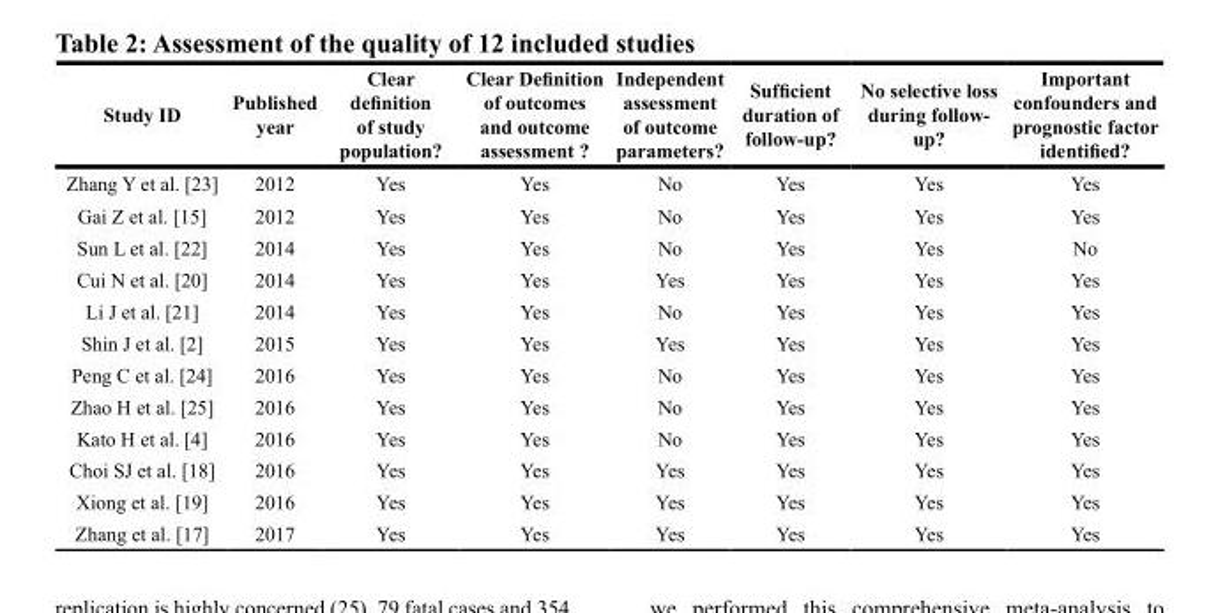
<table><thead><tr><td>Study ID</td><td>Published year</td><td>Clear definition of study population?</td><td>Clear Definition of outcomes and outcome assessment ?</td><td>Independent assessment of outcome parameters?</td><td>Sufficient duration of follow-up?</td><td>No selective loss during follow- up?</td><td>Important confounders and prognostic factor identified?</td></tr></thead><tbody><tr><td>Zhang Y et al. [23]</td><td>2012</td><td>Yes</td><td>Yes</td><td>No</td><td>Yes</td><td>Yes</td><td>Yes</td></tr><tr><td>Gai Z et al. [15]</td><td>2012</td><td>Yes</td><td>Yes</td><td>No</td><td>Yes</td><td>Yes</td><td>Yes</td></tr><tr><td>Sun L et al. [22]</td><td>2014</td><td>Yes</td><td>Yes</td><td>No</td><td>Yes</td><td>Yes</td><td>No</td></tr><tr><td>Cui N et al. [20]</td><td>2014</td><td>Yes</td><td>Yes</td><td>Yes</td><td>Yes</td><td>Yes</td><td>Yes</td></tr><tr><td>Li J et al. [21]</td><td>2014</td><td>Yes</td><td>Yes</td><td>No</td><td>Yes</td><td>Yes</td><td>Yes</td></tr><tr><td>Shin J et al. [2]</td><td>2015</td><td>Yes</td><td>Yes</td><td>Yes</td><td>Yes</td><td>Yes</td><td>Yes</td></tr><tr><td>Peng C et al. [24]</td><td>2016</td><td>Yes</td><td>Yes</td><td>No</td><td>Yes</td><td>Yes</td><td>Yes</td></tr><tr><td>Zhao H et al. [25]</td><td>2016</td><td>Yes</td><td>Yes</td><td>No</td><td>Yes</td><td>Yes</td><td>Yes</td></tr><tr><td>Kato H et al. [4]</td><td>2016</td><td>Yes</td><td>Yes</td><td>No</td><td>Yes</td><td>Yes</td><td>Yes</td></tr><tr><td>Choi SJ et al. [18]</td><td>2016</td><td>Yes</td><td>Yes</td><td>Yes</td><td>Yes</td><td>Yes</td><td>Yes</td></tr><tr><td>Xiong et al. [19]</td><td>2016</td><td>Yes</td><td>Yes</td><td>Yes</td><td>Yes</td><td>Yes</td><td>Yes</td></tr><tr><td>Zhang et al. [17]</td><td>2017</td><td>Yes</td><td>Yes</td><td>Yes</td><td>Yes</td><td>Yes</td><td>Yes</td></tr></tbody></table>